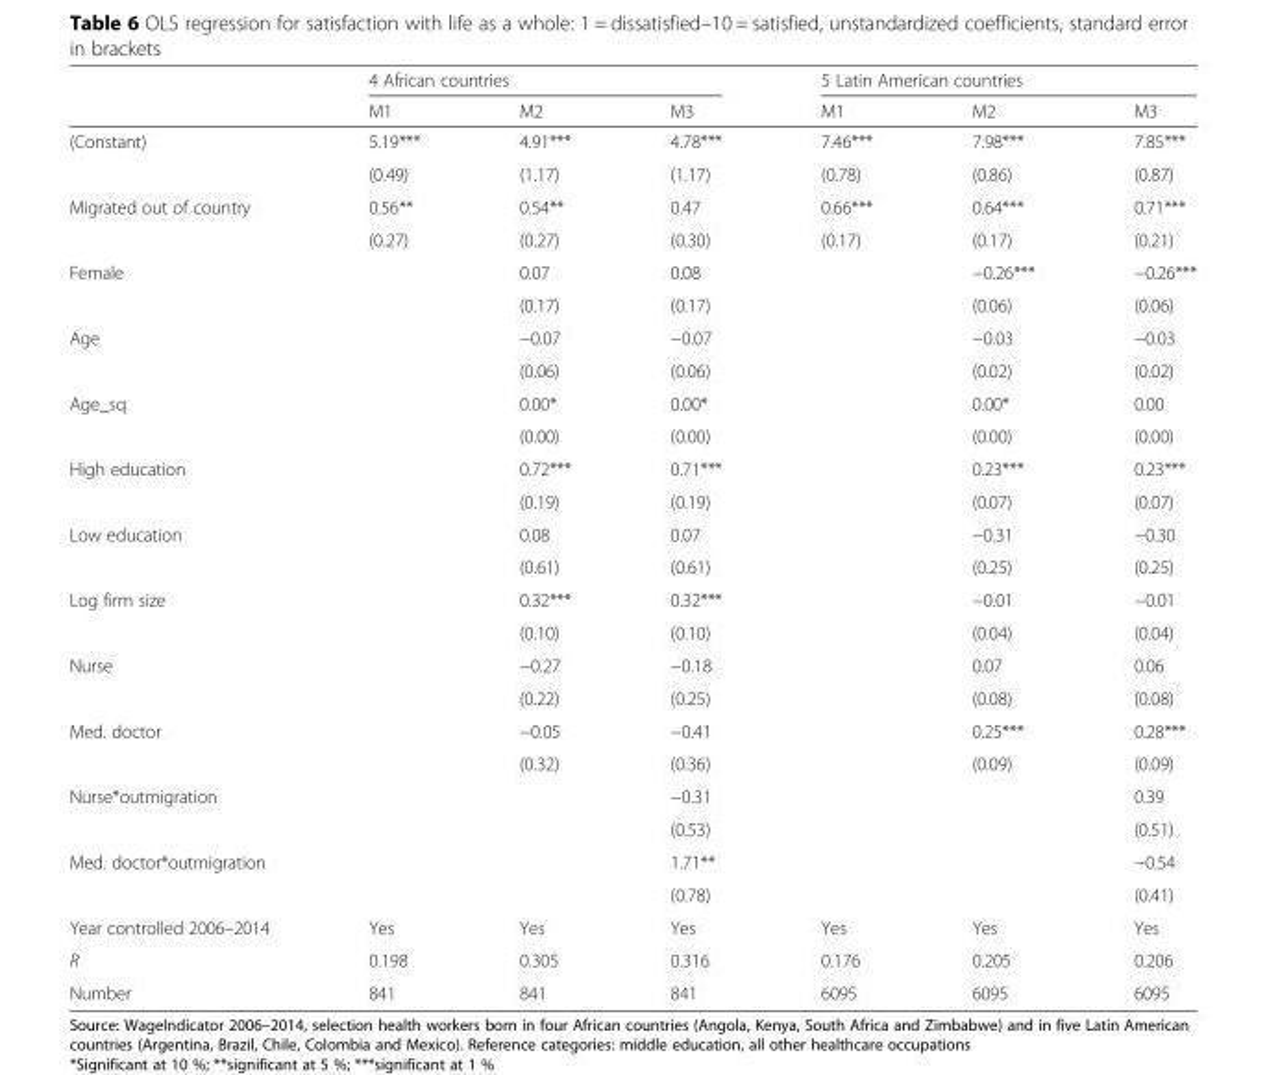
<table><thead><tr><td rowspan="2"></td><td colspan="3">4 African countries</td><td colspan="3">5 Latin American countries</td></tr><tr><td>M1</td><td>M2</td><td>M3</td><td>M1</td><td>M2</td><td>M3</td></tr></thead><tbody><tr><td rowspan="2">(Constant)</td><td>5.19***</td><td>4.91***</td><td>4.78***</td><td>7.46***</td><td>7.98***</td><td>7.85***</td></tr><tr><td>(0.49)</td><td>(1.17)</td><td>(1.17)</td><td>(0.78)</td><td>(0.86)</td><td>(0.87)</td></tr><tr><td rowspan="2">Migrated out of country</td><td>0.56**</td><td>0.54**</td><td>0.47</td><td>0.66***</td><td>0.64***</td><td>0.71***</td></tr><tr><td>(0.27)</td><td>(0.27)</td><td>(0.30)</td><td>(0.17)</td><td>(0.17)</td><td>(0.21)</td></tr><tr><td rowspan="2">Female</td><td></td><td>0.07</td><td>0.08</td><td></td><td>−0.26***</td><td>−0.26***</td></tr><tr><td></td><td>(0.17)</td><td>(0.17)</td><td></td><td>(0.06)</td><td>(0.06)</td></tr><tr><td rowspan="2">Age</td><td></td><td>−0.07</td><td>−0.07</td><td></td><td>−0.03</td><td>−0.03</td></tr><tr><td></td><td>(0.06)</td><td>(0.06)</td><td></td><td>(0.02)</td><td>(0.02)</td></tr><tr><td rowspan="2">Age_sq</td><td></td><td>0.00*</td><td>0.00*</td><td></td><td>0.00*</td><td>0.00</td></tr><tr><td></td><td>(0.00)</td><td>(0.00)</td><td></td><td>(0.00)</td><td>(0.00)</td></tr><tr><td rowspan="2">High education</td><td></td><td>0.72***</td><td>0.71***</td><td></td><td>0.23***</td><td>0.23***</td></tr><tr><td></td><td>(0.19)</td><td>(0.19)</td><td></td><td>(0.07)</td><td>(0.07)</td></tr><tr><td rowspan="2">Low education</td><td></td><td>0.08</td><td>0.07</td><td></td><td>−0.31</td><td>−0.30</td></tr><tr><td></td><td>(0.61)</td><td>(0.61)</td><td></td><td>(0.25)</td><td>(0.25)</td></tr><tr><td rowspan="2">Log firm size</td><td></td><td>0.32***</td><td>0.32***</td><td></td><td>−0.01</td><td>−0.01</td></tr><tr><td></td><td>(0.10)</td><td>(0.10)</td><td></td><td>(0.04)</td><td>(0.04)</td></tr><tr><td rowspan="2">Nurse</td><td></td><td>−0.27</td><td>−0.18</td><td></td><td>0.07</td><td>0.06</td></tr><tr><td></td><td>(0.22)</td><td>(0.25)</td><td></td><td>(0.08)</td><td>(0.08)</td></tr><tr><td rowspan="2">Med. doctor</td><td></td><td>−0.05</td><td>−0.41</td><td></td><td>0.25***</td><td>0.28***</td></tr><tr><td></td><td>(0.32)</td><td>(0.36)</td><td></td><td>(0.09)</td><td>(0.09)</td></tr><tr><td rowspan="2">Nurse*outmigration</td><td></td><td></td><td>−0.31</td><td></td><td></td><td>0.39</td></tr><tr><td></td><td></td><td>(0.53)</td><td></td><td></td><td>(0.51)</td></tr><tr><td rowspan="2">Med. doctor*outmigration</td><td></td><td></td><td>1.71**</td><td></td><td></td><td>−0.54</td></tr><tr><td></td><td></td><td>(0.78)</td><td></td><td></td><td>(0.41)</td></tr><tr><td>Year controlled 2006–2014</td><td>Yes</td><td>Yes</td><td>Yes</td><td>Yes</td><td>Yes</td><td>Yes</td></tr><tr><td>R</td><td>0.198</td><td>0.305</td><td>0.316</td><td>0.176</td><td>0.205</td><td>0.206</td></tr><tr><td>Number</td><td>841</td><td>841</td><td>841</td><td>6095</td><td>6095</td><td>6095</td></tr></tbody></table>